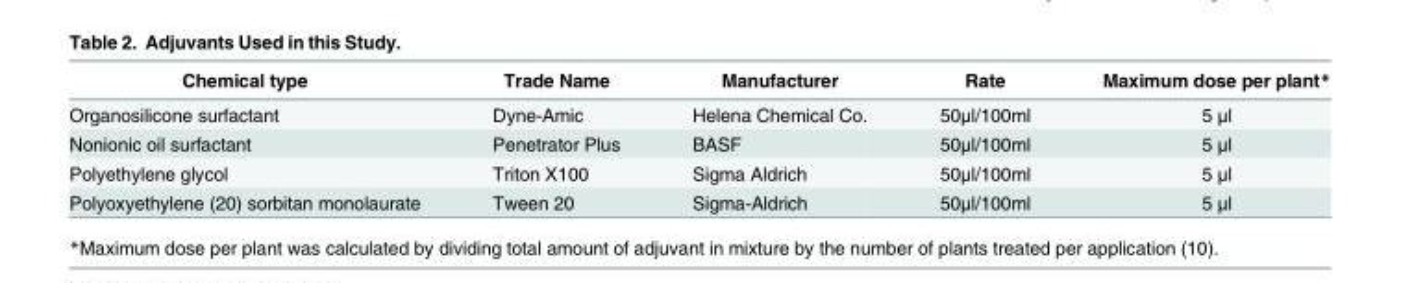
<table><thead><tr><td>Chemical type</td><td>Trade Name</td><td>Manufacturer</td><td>Rate</td><td>Maximum dose per plant*</td></tr></thead><tbody><tr><td>Organosilicone surfactant</td><td>Dyne-Amic</td><td>Helena Chemical Co.</td><td>50μl/100ml</td><td>5 μl</td></tr><tr><td>Nonionic oil surfactant</td><td>Penetrator Plus</td><td>BASF</td><td>50μl/100ml</td><td>5 μl</td></tr><tr><td>Polyethylene glycol</td><td>Triton X100</td><td>Sigma Aldrich</td><td>50μl/100ml</td><td>5 μl</td></tr><tr><td>Polyoxyethylene (20) sorbitan monolaurate</td><td>Tween 20</td><td>Sigma-Aldrich</td><td>50μl/100ml</td><td>5 μl</td></tr></tbody></table>